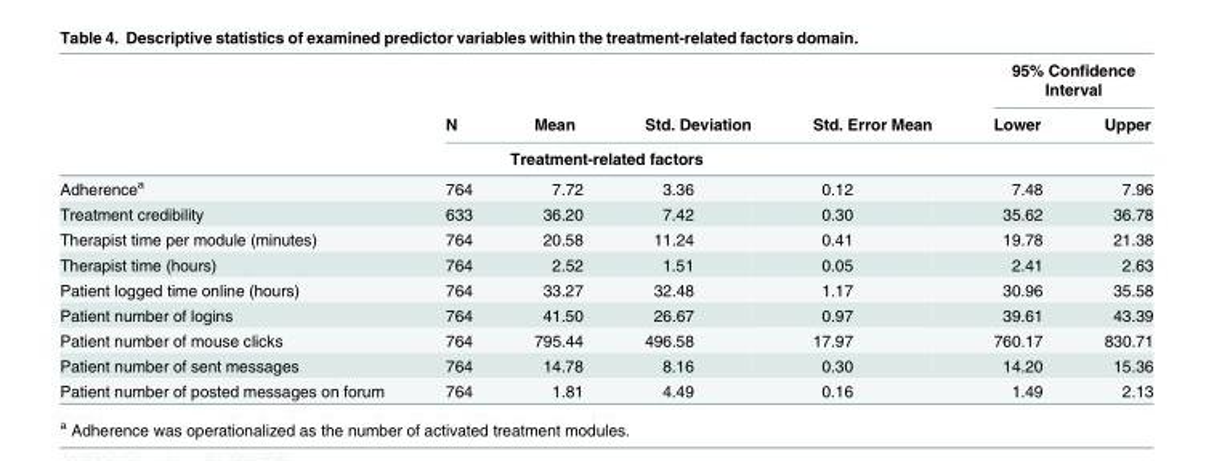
<table><thead><tr><td rowspan="2"></td><td rowspan="2">N</td><td rowspan="2">Mean</td><td rowspan="2">Std. Deviation</td><td rowspan="2">Std. Error Mean</td><td colspan="2">95% Confidence Interval</td></tr><tr><td>Lower</td><td>Upper</td></tr><tr><td colspan="7">Treatment-related factors</td></tr></thead><tbody><tr><td>Adherence<sup>a</sup></td><td>764</td><td>7.72</td><td>3.36</td><td>0.12</td><td>7.48</td><td>7.96</td></tr><tr><td>Treatment credibility</td><td>633</td><td>36.20</td><td>7.42</td><td>0.30</td><td>35.62</td><td>36.78</td></tr><tr><td>Therapist time per module (minutes)</td><td>764</td><td>20.58</td><td>11.24</td><td>0.41</td><td>19.78</td><td>21.38</td></tr><tr><td>Therapist time (hours)</td><td>764</td><td>2.52</td><td>1.51</td><td>0.05</td><td>2.41</td><td>2.63</td></tr><tr><td>Patient logged time online (hours)</td><td>764</td><td>33.27</td><td>32.48</td><td>1.17</td><td>30.96</td><td>35.58</td></tr><tr><td>Patient number of logins</td><td>764</td><td>41.50</td><td>26.67</td><td>0.97</td><td>39.61</td><td>43.39</td></tr><tr><td>Patient number of mouse clicks</td><td>764</td><td>795.44</td><td>496.58</td><td>17.97</td><td>760.17</td><td>830.71</td></tr><tr><td>Patient number of sent messages</td><td>764</td><td>14.78</td><td>8.16</td><td>0.30</td><td>14.20</td><td>15.36</td></tr><tr><td>Patient number of posted messages on forum</td><td>764</td><td>1.81</td><td>4.49</td><td>0.16</td><td>1.49</td><td>2.13</td></tr></tbody></table>